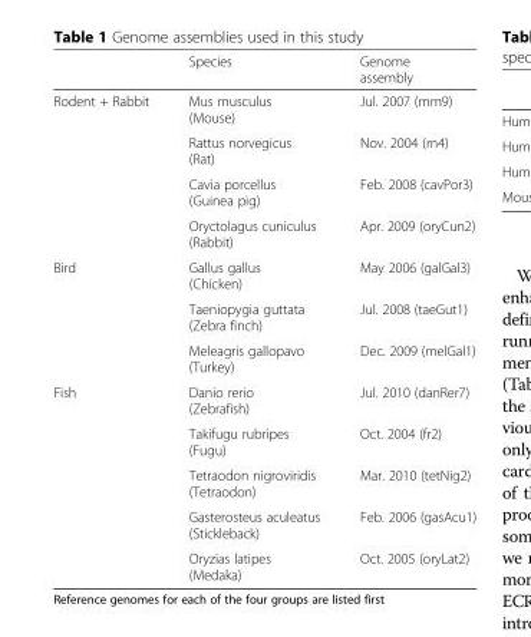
<table><thead><tr><td></td><td>Species</td><td>Genome assembly</td></tr></thead><tbody><tr><td rowspan="4">Rodent + Rabbit</td><td>Mus musculus (Mouse)</td><td>Jul. 2007 (mm9)</td></tr><tr><td>Rattus norvegicus (Rat)</td><td>Nov. 2004 (rn4)</td></tr><tr><td>Cavia porcellus (Guinea pig)</td><td>Feb. 2008 (cavPor3)</td></tr><tr><td>Oryctolagus cuniculus (Rabbit)</td><td>Apr. 2009 (oryCun2)</td></tr><tr><td rowspan="3">Bird</td><td>Gallus gallus (Chicken)</td><td>May 2006 (galGal3)</td></tr><tr><td>Taeniopygia guttata (Zebra finch)</td><td>Jul. 2008 (taeGut1)</td></tr><tr><td>Meleagris gallopavo (Turkey)</td><td>Dec. 2009 (melGal1)</td></tr><tr><td rowspan="5">Fish</td><td>Danio rerio (Zebrafish)</td><td>Jul. 2010 (danRer7)</td></tr><tr><td>Takifugu rubripes (Fugu)</td><td>Oct. 2004 (fr2)</td></tr><tr><td>Tetraodon nigroviridis (Tetraodon)</td><td>Mar. 2010 (tetNig2)</td></tr><tr><td>Gasterosteus aculeatus (Stickleback)</td><td>Feb. 2006 (gasAcu1)</td></tr><tr><td>Oryzias latipes (Medaka)</td><td>Oct. 2005 (oryLat2)</td></tr></tbody></table>